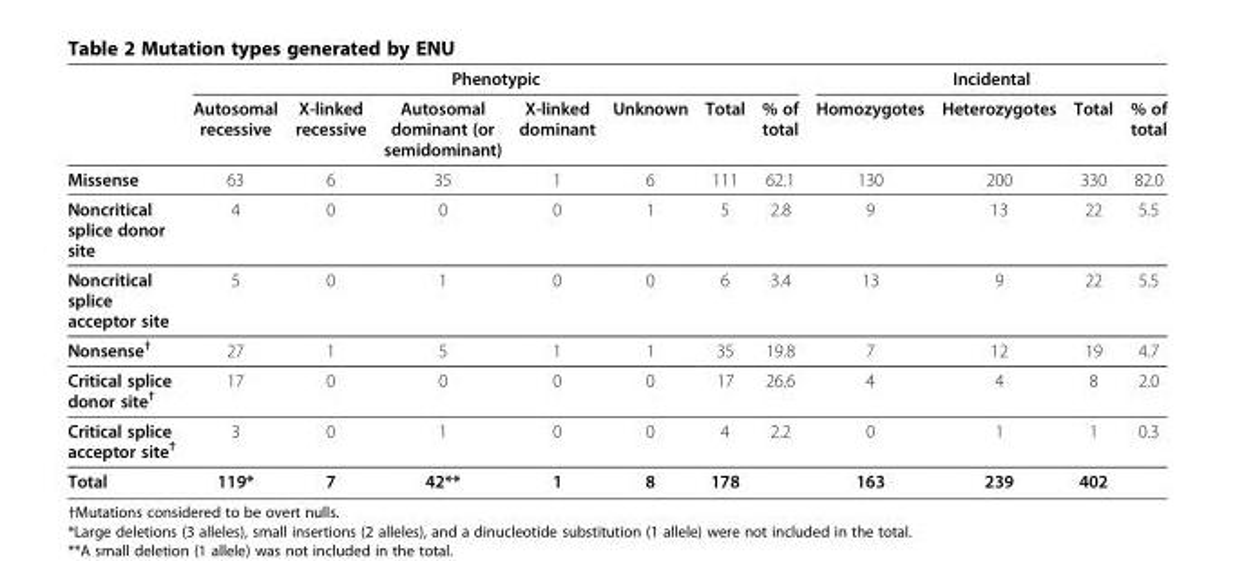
<table><thead><tr><td rowspan="2"></td><td colspan="7">Phenotypic</td><td colspan="4">Incidental</td></tr><tr><td>Autosomal recessive</td><td>X-linked recessive</td><td>Autosomal dominant (or semidominant)</td><td>X-linked dominant</td><td>Unknown</td><td>Total</td><td>% of total</td><td>Homozygotes</td><td>Heterozygotes</td><td>Total</td><td>% of total</td></tr></thead><tbody><tr><td>Missense</td><td>63</td><td>6</td><td>35</td><td>1</td><td>6</td><td>111</td><td>62.1</td><td>130</td><td>200</td><td>330</td><td>82.0</td></tr><tr><td>Noncritical splice donor site</td><td>4</td><td>0</td><td>0</td><td>0</td><td>1</td><td>5</td><td>2.8</td><td>9</td><td>13</td><td>22</td><td>5.5</td></tr><tr><td>Noncritical splice acceptor site</td><td>5</td><td>0</td><td>1</td><td>0</td><td>0</td><td>6</td><td>3.4</td><td>13</td><td>9</td><td>22</td><td>5.5</td></tr><tr><td>Nonsense<sup>†</sup></td><td>27</td><td>1</td><td>5</td><td>1</td><td>1</td><td>35</td><td>19.8</td><td>7</td><td>12</td><td>19</td><td>4.7</td></tr><tr><td>Critical splice donor site<sup>†</sup></td><td>17</td><td>0</td><td>0</td><td>0</td><td>0</td><td>17</td><td>26.6</td><td>4</td><td>4</td><td>8</td><td>2.0</td></tr><tr><td>Critical splice acceptor site<sup>†</sup></td><td>3</td><td>0</td><td>1</td><td>0</td><td>0</td><td>4</td><td>2.2</td><td>0</td><td>1</td><td>1</td><td>0.3</td></tr><tr><td>Total</td><td>119*</td><td>7</td><td>42**</td><td>1</td><td>8</td><td>178</td><td></td><td>163</td><td>239</td><td>402</td><td></td></tr></tbody></table>